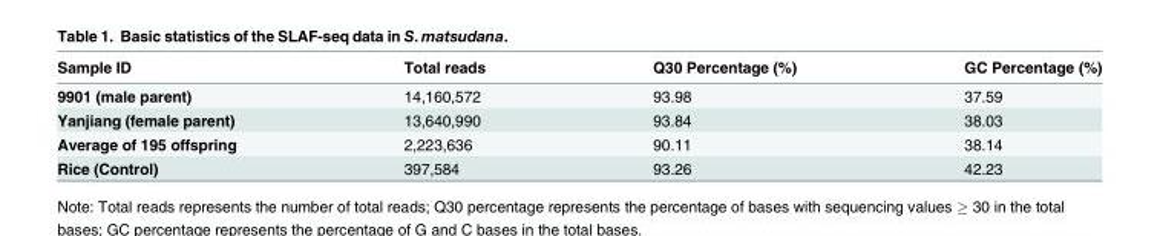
<table><thead><tr><td>Sample ID</td><td>Total reads</td><td>Q30 Percentage (%)</td><td>GC Percentage (%)</td></tr></thead><tbody><tr><td>9901 (male parent)</td><td>14,160,572</td><td>93.98</td><td>37.59</td></tr><tr><td>Yanjiang (female parent)</td><td>13,640,990</td><td>93.84</td><td>38.03</td></tr><tr><td>Average of 195 offspring</td><td>2,223,636</td><td>90.11</td><td>38.14</td></tr><tr><td>Rice (Control)</td><td>397,584</td><td>93.26</td><td>42.23</td></tr></tbody></table>